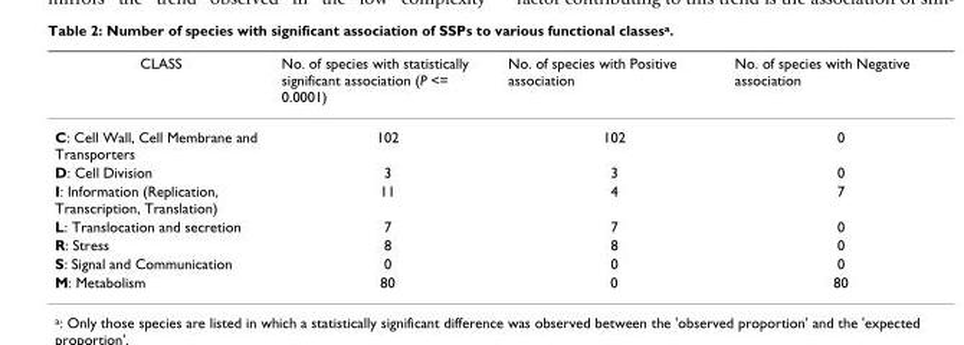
<table><thead><tr><td>CLASS</td><td>No. of species with statistically significant association (P &lt;= 0.0001)</td><td>No. of species with Positive association</td><td>No. of species with Negative association</td></tr></thead><tbody><tr><td>C: Cell Wall, Cell Membrane and Transporters</td><td>102</td><td>102</td><td>0</td></tr><tr><td>D: Cell Division</td><td>3</td><td>3</td><td>0</td></tr><tr><td>I: Information (Replication, Transcription, Translation)</td><td>11</td><td>4</td><td>7</td></tr><tr><td>L: Translocation and secretion</td><td>7</td><td>7</td><td>0</td></tr><tr><td>R: Stress</td><td>8</td><td>8</td><td>0</td></tr><tr><td>S: Signal and Communication</td><td>0</td><td>0</td><td>0</td></tr><tr><td>M: Metabolism</td><td>80</td><td>0</td><td>80</td></tr></tbody></table>